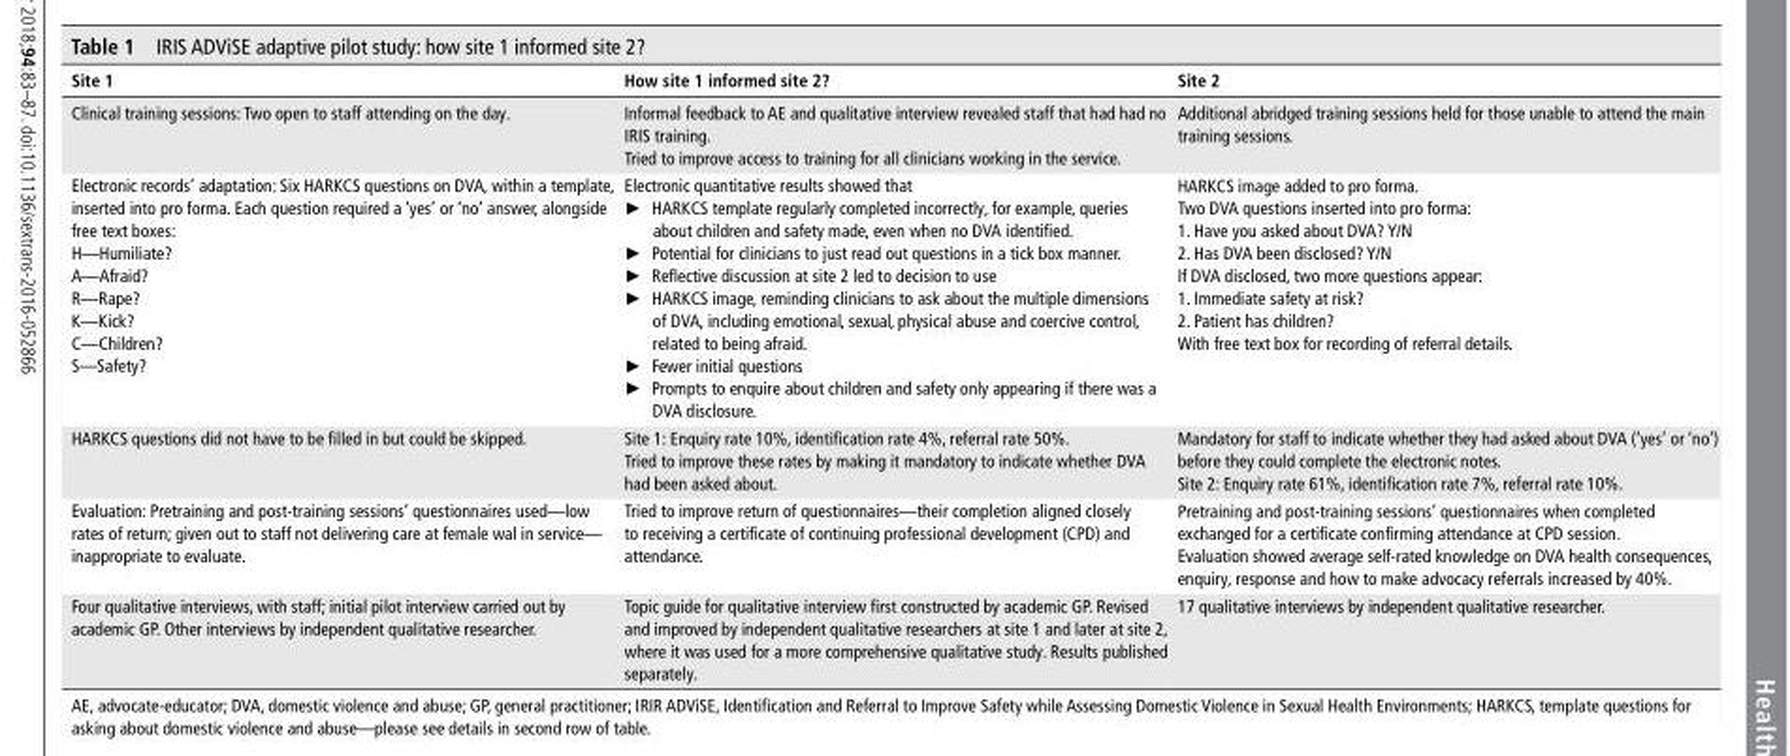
<table><thead><tr><td>site 1</td><td>How site 1 informed site 2?</td><td>site 2</td></tr></thead><tbody><tr><td>Clinical training sessions: Two open to staff attending on the day.</td><td>Informal feedback to AE and qualitative interview revealed staff that had had no IRIS training. Tried to improve access to training for all clinicians working in the service.</td><td>Additional abridged training sessions held for those unable to attend the main training sessions.</td></tr><tr><td>Electronic records’ adaptation: Six HARKCS questions on DVA, within a template, inserted into pro forma. Each question required a ‘yes’ or ‘no’ answer, alongside free text boxes: H—Humiliate? A—Afraid? R—Rape? K—Kick? C—Children? S—Safety?</td><td>Electronic quantitative results showed that ► HARKCS template regularly completed incorrectly, for example, queries about children and safety made, even when no DVA identified. ► Potential for clinicians to just read out questions in a tick box manner. ► Reflective discussion at site 2 led to decision to use ► HARKCS image, reminding clinicians to ask about the multiple dimensions of DVA, including emotional, sexual, physical abuse and coercive control, related to being afraid. ► Fewer initial questions ► Prompts to enquire about children and safety only appearing if there was a DVA disclosure.</td><td>HARKCS image added to pro forma. Two DVA questions inserted into pro forma: 1. Have you asked about DVA? Y/N 2. Has DVA been disclosed? Y/N If DVA disclosed, two more questions appear: 1. Immediate safety at risk? 2. Patient has children? With free text box for recording of referral details.</td></tr><tr><td>HARKCS questions did not have to be filled in but could be skipped.</td><td>Site 1: Enquiry rate 10%, identification rate 4%, referral rate 50%. Tried to improve these rates by making it mandatory to indicate whether DVA had been asked about.</td><td>Mandatory for staff to indicate whether they had asked about DVA (‘yes’ or ‘no’) before they could complete the electronic notes. Site 2: Enquiry rate 61%, identification rate 7%, referral rate 10%.</td></tr><tr><td>Evaluation: Pretraining and post-training sessions’ questionnaires used—low rates of return; given out to staff not delivering care at female wal in service— inappropriate to evaluate.</td><td>Tried to improve return of questionnaires—their completion aligned closely to receiving a certificate of continuing professional development (CPD) and attendance.</td><td>Pretraining and post-training sessions’ questionnaires when completed exchanged for a certificate confirming attendance at CPD session. Evaluation showed average self-rated knowledge on DVA health consequences, enquiry, response and how to make advocacy referrals increased by 40%.</td></tr><tr><td>Four qualitative interviews, with staff; initial pilot interview carried out by academic GP. Other interviews by independent qualitative researcher.</td><td>Topic guide for qualitative interview first constructed by academic GP. Revised and improved by independent qualitative researchers at site 1 and later at site 2, where it was used for a more comprehensive qualitative study. Results published separately.</td><td>17 qualitative interviews by independent qualitative researcher.</td></tr></tbody></table>